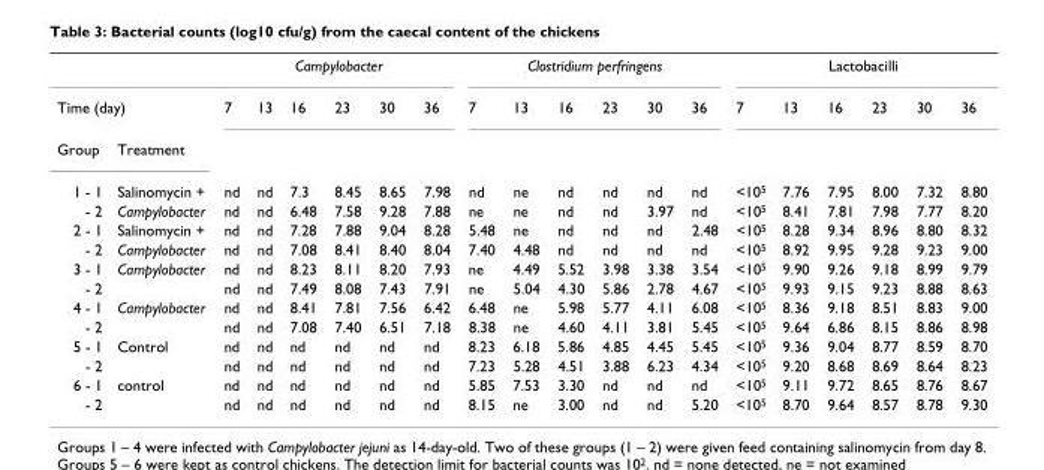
<table><thead><tr><td></td><td></td><td colspan="6">Campylobacter</td><td colspan="6">Clostridium perfringens</td><td colspan="6">Lactobacilli</td></tr><tr><td colspan="2">Time (day)</td><td>7</td><td>13</td><td>16</td><td>23</td><td>30</td><td>36</td><td>7</td><td>13</td><td>16</td><td>23</td><td>30</td><td>36</td><td>7</td><td>13</td><td>16</td><td>23</td><td>30</td><td>36</td></tr></thead><tbody><tr><td>Group</td><td>Treatment</td><td></td><td></td><td></td><td></td><td></td><td></td><td></td><td></td><td></td><td></td><td></td><td></td><td></td><td></td><td></td><td></td><td></td><td></td></tr><tr><td>1 - 1</td><td>Salinomycin +</td><td>nd</td><td>nd</td><td>7.3</td><td>8.45</td><td>8.65</td><td>7.98</td><td>nd</td><td>ne</td><td>nd</td><td>nd</td><td>nd</td><td>nd</td><td>&lt;10<sup>5</sup></td><td>7.76</td><td>7.95</td><td>8.00</td><td>7.32</td><td>8.80</td></tr><tr><td>- 2</td><td>Campylobacter</td><td>nd</td><td>nd</td><td>6.48</td><td>7.58</td><td>9.28</td><td>7.88</td><td>ne</td><td>ne</td><td>nd</td><td>nd</td><td>3.97</td><td>nd</td><td>&lt;10<sup>5</sup></td><td>8.41</td><td>7.81</td><td>7.98</td><td>7.77</td><td>8.20</td></tr><tr><td>2 - 1</td><td>Salinomycin +</td><td>nd</td><td>nd</td><td>7.28</td><td>7.88</td><td>9.04</td><td>8.28</td><td>5.48</td><td>ne</td><td>nd</td><td>nd</td><td>nd</td><td>2.48</td><td>&lt;10<sup>5</sup></td><td>8.28</td><td>9.34</td><td>8.96</td><td>8.80</td><td>8.32</td></tr><tr><td>- 2</td><td>Campylobacter</td><td>nd</td><td>nd</td><td>7.08</td><td>8.41</td><td>8.40</td><td>8.04</td><td>7.40</td><td>4.48</td><td>nd</td><td>nd</td><td>nd</td><td>nd</td><td>&lt;10<sup>5</sup></td><td>8.92</td><td>9.95</td><td>9.28</td><td>9.23</td><td>9.00</td></tr><tr><td>3 - 1</td><td>Campylobacter</td><td>nd</td><td>nd</td><td>8.23</td><td>8.11</td><td>8.20</td><td>7.93</td><td>ne</td><td>4.49</td><td>5.52</td><td>3.98</td><td>3.38</td><td>3.54</td><td>&lt;10<sup>5</sup></td><td>9.90</td><td>9.26</td><td>9.18</td><td>8.99</td><td>9.79</td></tr><tr><td>- 2</td><td></td><td>nd</td><td>nd</td><td>7.49</td><td>8.08</td><td>7.43</td><td>7.91</td><td>ne</td><td>5.04</td><td>4.30</td><td>5.86</td><td>2.78</td><td>4.67</td><td>&lt;10<sup>5</sup></td><td>9.93</td><td>9.15</td><td>9.23</td><td>8.88</td><td>8.63</td></tr><tr><td>4 - 1</td><td>Campylobacter</td><td>nd</td><td>nd</td><td>8.41</td><td>7.81</td><td>7.56</td><td>6.42</td><td>6.48</td><td>ne</td><td>5.98</td><td>5.77</td><td>4.11</td><td>6.08</td><td>&lt;10<sup>5</sup></td><td>8.36</td><td>9.18</td><td>8.51</td><td>8.83</td><td>9.00</td></tr><tr><td>- 2</td><td></td><td>nd</td><td>nd</td><td>7.08</td><td>7.40</td><td>6.51</td><td>7.18</td><td>8.38</td><td>ne</td><td>4.60</td><td>4.11</td><td>3.81</td><td>5.45</td><td>&lt;10<sup>5</sup></td><td>9.64</td><td>6.86</td><td>8.15</td><td>8.86</td><td>8.98</td></tr><tr><td>5 - 1</td><td>Control</td><td>nd</td><td>nd</td><td>nd</td><td>nd</td><td>nd</td><td>nd</td><td>8.23</td><td>6.18</td><td>5.86</td><td>4.85</td><td>4.45</td><td>5.45</td><td>&lt;10<sup>5</sup></td><td>9.36</td><td>9.04</td><td>8.77</td><td>8.59</td><td>8.70</td></tr><tr><td>- 2</td><td></td><td>nd</td><td>nd</td><td>nd</td><td>nd</td><td>nd</td><td>nd</td><td>7.23</td><td>5.28</td><td>4.51</td><td>3.88</td><td>6.23</td><td>4.34</td><td>&lt;10<sup>5</sup></td><td>9.20</td><td>8.68</td><td>8.69</td><td>8.64</td><td>8.23</td></tr><tr><td>6 - 1</td><td>control</td><td>nd</td><td>nd</td><td>nd</td><td>nd</td><td>nd</td><td>nd</td><td>5.85</td><td>7.53</td><td>3.30</td><td>nd</td><td>nd</td><td>nd</td><td>&lt;10<sup>5</sup></td><td>9.11</td><td>9.72</td><td>8.65</td><td>8.76</td><td>8.67</td></tr><tr><td>- 2</td><td></td><td>nd</td><td>nd</td><td>nd</td><td>nd</td><td>nd</td><td>nd</td><td>8.15</td><td>ne</td><td>3.00</td><td>nd</td><td>nd</td><td>5.20</td><td>&lt;10<sup>5</sup></td><td>8.70</td><td>9.64</td><td>8.57</td><td>8.78</td><td>9.30</td></tr></tbody></table>